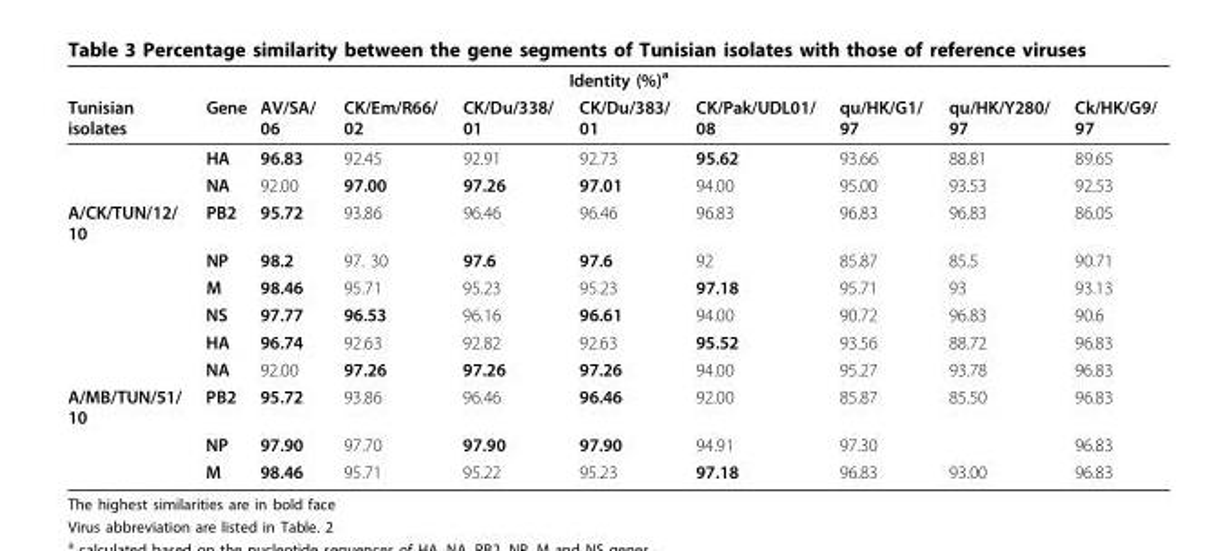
<table><thead><tr><td colspan="10">Identity (%)<sup>a</sup></td></tr><tr><td>Tunisian isolates</td><td>Gene</td><td>AV/SA/ 06</td><td>CK/Em/R66/ 02</td><td>CK/Du/338/ 01</td><td>CK/Du/383/ 01</td><td>CK/Pak/UDL01/ 08</td><td>qu/HK/G1/ 97</td><td>qu/HK/Y280/ 97</td><td>Ck/HK/G9/ 97</td></tr></thead><tbody><tr><td></td><td>HA</td><td>96.83</td><td>92.45</td><td>92.91</td><td>92.73</td><td>95.62</td><td>93.66</td><td>88.81</td><td>89.65</td></tr><tr><td></td><td>NA</td><td>92.00</td><td>97.00</td><td>97.26</td><td>97.01</td><td>94.00</td><td>95.00</td><td>93.53</td><td>92.53</td></tr><tr><td rowspan="6">A/CK/TUN/12/ 10</td><td>PB2</td><td>95.72</td><td>93.86</td><td>96.46</td><td>96.46</td><td>96.83</td><td>96.83</td><td>96.83</td><td>86.05</td></tr><tr><td>NP</td><td>98.2</td><td>97. 30</td><td>97.6</td><td>97.6</td><td>92</td><td>85.87</td><td>85.5</td><td>90.71</td></tr><tr><td>M</td><td>98.46</td><td>95.71</td><td>95.23</td><td>95.23</td><td>97.18</td><td>95.71</td><td>93</td><td>93.13</td></tr><tr><td>NS</td><td>97.77</td><td>96.53</td><td>96.16</td><td>96.61</td><td>94.00</td><td>90.72</td><td>96.83</td><td>90.6</td></tr><tr><td>HA</td><td>96.74</td><td>92.63</td><td>92.82</td><td>92.63</td><td>95.52</td><td>93.56</td><td>88.72</td><td>96.83</td></tr><tr><td>NA</td><td>92.00</td><td>97.26</td><td>97.26</td><td>97.26</td><td>94.00</td><td>95.27</td><td>93.78</td><td>96.83</td></tr><tr><td rowspan="3">A/MB/TUN/51/ 10</td><td>PB2</td><td>95.72</td><td>93.86</td><td>96.46</td><td>96.46</td><td>92.00</td><td>85.87</td><td>85.50</td><td>96.83</td></tr><tr><td>NP</td><td>97.90</td><td>97.70</td><td>97.90</td><td>97.90</td><td>94.91</td><td>97.30</td><td></td><td>96.83</td></tr><tr><td>M</td><td>98.46</td><td>95.71</td><td>95.22</td><td>95.23</td><td>97.18</td><td>96.83</td><td>93.00</td><td>96.83</td></tr></tbody></table>